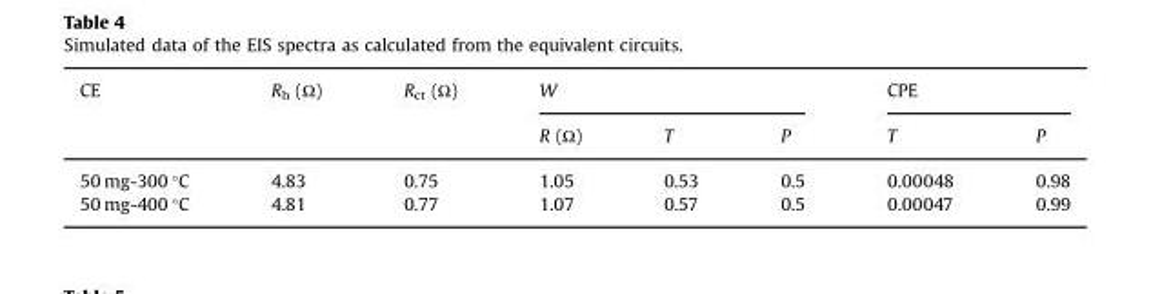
<table><thead><tr><td rowspan="2">CE</td><td rowspan="2">R<sub>h</sub> (Ω)</td><td rowspan="2">R<sub>ct</sub> (Ω)</td><td colspan="3">W</td><td colspan="2">CPE</td></tr><tr><td>R (Ω)</td><td>T</td><td>P</td><td>T</td><td>P</td></tr></thead><tbody><tr><td>50 mg-300 °C</td><td>4.83</td><td>0.75</td><td>1.05</td><td>0.53</td><td>0.5</td><td>0.00048</td><td>0.98</td></tr><tr><td>50 mg-400 °C</td><td>4.81</td><td>0.77</td><td>1.07</td><td>0.57</td><td>0.5</td><td>0.00047</td><td>0.99</td></tr></tbody></table>